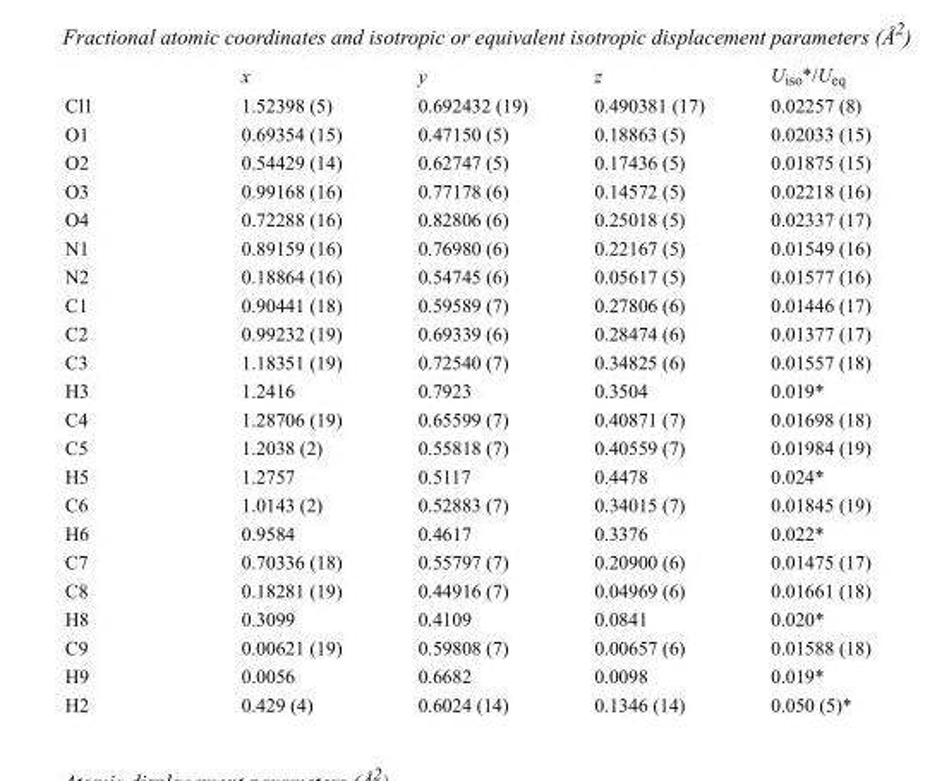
<table><thead><tr><td></td><td>x</td><td>y</td><td>z</td><td>U<sub>iso</sub>*/U<sub>eq</sub></td></tr></thead><tbody><tr><td>Cl1</td><td>1.52398 (5)</td><td>0.692432 (19)</td><td>0.490381 (17)</td><td>0.02257 (8)</td></tr><tr><td>O1</td><td>0.69354 (15)</td><td>0.47150 (5)</td><td>0.18863 (5)</td><td>0.02033 (15)</td></tr><tr><td>O2</td><td>0.54429 (14)</td><td>0.62747 (5)</td><td>0.17436 (5)</td><td>0.01875 (15)</td></tr><tr><td>O3</td><td>0.99168 (16)</td><td>0.77178 (6)</td><td>0.14572 (5)</td><td>0.02218 (16)</td></tr><tr><td>O4</td><td>0.72288 (16)</td><td>0.82806 (6)</td><td>0.25018 (5)</td><td>0.02337 (17)</td></tr><tr><td>N1</td><td>0.89159 (16)</td><td>0.76980 (6)</td><td>0.22167 (5)</td><td>0.01549 (16)</td></tr><tr><td>N2</td><td>0.18864 (16)</td><td>0.54745 (6)</td><td>0.05617 (5)</td><td>0.01577 (16)</td></tr><tr><td>C1</td><td>0.90441 (18)</td><td>0.59589 (7)</td><td>0.27806 (6)</td><td>0.01446 (17)</td></tr><tr><td>C2</td><td>0.99232 (19)</td><td>0.69339 (6)</td><td>0.28474 (6)</td><td>0.01377 (17)</td></tr><tr><td>C3</td><td>1.18351 (19)</td><td>0.72540 (7)</td><td>0.34825 (6)</td><td>0.01557 (18)</td></tr><tr><td>H3</td><td>1.2416</td><td>0.7923</td><td>0.3504</td><td>0.019*</td></tr><tr><td>C4</td><td>1.28706 (19)</td><td>0.65599 (7)</td><td>0.40871 (7)</td><td>0.01698 (18)</td></tr><tr><td>C5</td><td>1.2038 (2)</td><td>0.55818 (7)</td><td>0.40559 (7)</td><td>0.01984 (19)</td></tr><tr><td>H5</td><td>1.2757</td><td>0.5117</td><td>0.4478</td><td>0.024*</td></tr><tr><td>C6</td><td>1.0143 (2)</td><td>0.52883 (7)</td><td>0.34015 (7)</td><td>0.01845 (19)</td></tr><tr><td>H6</td><td>0.9584</td><td>0.4617</td><td>0.3376</td><td>0.022*</td></tr><tr><td>C7</td><td>0.70336 (18)</td><td>0.55797 (7)</td><td>0.20900 (6)</td><td>0.01475 (17)</td></tr><tr><td>C8</td><td>0.18281 (19)</td><td>0.44916 (7)</td><td>0.04969 (6)</td><td>0.01661 (18)</td></tr><tr><td>H8</td><td>0.3099</td><td>0.4109</td><td>0.0841</td><td>0.020*</td></tr><tr><td>C9</td><td>0.00621 (19)</td><td>0.59808 (7)</td><td>0.00657 (6)</td><td>0.01588 (18)</td></tr><tr><td>H9</td><td>0.0056</td><td>0.6682</td><td>0.0098</td><td>0.019*</td></tr><tr><td>H2</td><td>0.429 (4)</td><td>0.6024 (14)</td><td>0.1346 (14)</td><td>0.050 (5)*</td></tr></tbody></table>